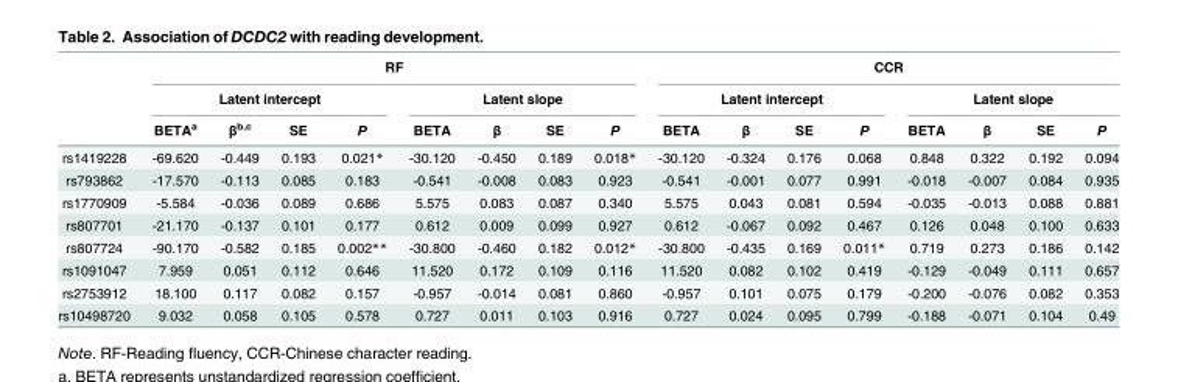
<table><thead><tr><td rowspan="3"></td><td colspan="8">RF</td><td colspan="8">CCR</td></tr><tr><td colspan="4">Latent intercept</td><td colspan="4">Latent slope</td><td colspan="4">Latent intercept</td><td colspan="4">Latent slope</td></tr><tr><td>BETA<sup>a</sup></td><td>β<sup>b,c</sup></td><td>SE</td><td>P</td><td>BETA</td><td>β</td><td>SE</td><td>P</td><td>BETA</td><td>β</td><td>SE</td><td>P</td><td>BETA</td><td>β</td><td>SE</td><td>P</td></tr></thead><tbody><tr><td>rs1419228</td><td>-69.620</td><td>-0.449</td><td>0.193</td><td>0.021*</td><td>-30.120</td><td>-0.450</td><td>0.189</td><td>0.018*</td><td>-30.120</td><td>-0.324</td><td>0.176</td><td>0.068</td><td>0.848</td><td>0.322</td><td>0.192</td><td>0.094</td></tr><tr><td>rs793862</td><td>-17.570</td><td>-0.113</td><td>0.085</td><td>0.183</td><td>-0.541</td><td>-0.008</td><td>0.083</td><td>0.923</td><td>-0.541</td><td>-0.001</td><td>0.077</td><td>0.991</td><td>-0.018</td><td>-0.007</td><td>0.084</td><td>0.935</td></tr><tr><td>rs1770909</td><td>-5.584</td><td>-0.036</td><td>0.089</td><td>0.686</td><td>5.575</td><td>0.083</td><td>0.087</td><td>0.340</td><td>5.575</td><td>0.043</td><td>0.081</td><td>0.594</td><td>-0.035</td><td>-0.013</td><td>0.088</td><td>0.881</td></tr><tr><td>rs807701</td><td>-21.170</td><td>-0.137</td><td>0.101</td><td>0.177</td><td>0.612</td><td>0.009</td><td>0.099</td><td>0.927</td><td>0.612</td><td>-0.067</td><td>0.092</td><td>0.467</td><td>0.126</td><td>0.048</td><td>0.100</td><td>0.633</td></tr><tr><td>rs807724</td><td>-90.170</td><td>-0.582</td><td>0.185</td><td>0.002**</td><td>-30.800</td><td>-0.460</td><td>0.182</td><td>0.012*</td><td>-30.800</td><td>-0.435</td><td>0.169</td><td>0.011*</td><td>0.719</td><td>0.273</td><td>0.186</td><td>0.142</td></tr><tr><td>rs1091047</td><td>7.959</td><td>0.051</td><td>0.112</td><td>0.646</td><td>11.520</td><td>0.172</td><td>0.109</td><td>0.116</td><td>11.520</td><td>0.082</td><td>0.102</td><td>0.419</td><td>-0.129</td><td>-0.049</td><td>0.111</td><td>0.657</td></tr><tr><td>rs2753912</td><td>18.100</td><td>0.117</td><td>0.082</td><td>0.157</td><td>-0.957</td><td>-0.014</td><td>0.081</td><td>0.860</td><td>-0.957</td><td>0.101</td><td>0.075</td><td>0.179</td><td>-0.200</td><td>-0.076</td><td>0.082</td><td>0.353</td></tr><tr><td>rs10498720</td><td>9.032</td><td>0.058</td><td>0.105</td><td>0.578</td><td>0.727</td><td>0.011</td><td>0.103</td><td>0.916</td><td>0.727</td><td>0.024</td><td>0.095</td><td>0.799</td><td>-0.188</td><td>-0.071</td><td>0.104</td><td>0.49</td></tr></tbody></table>